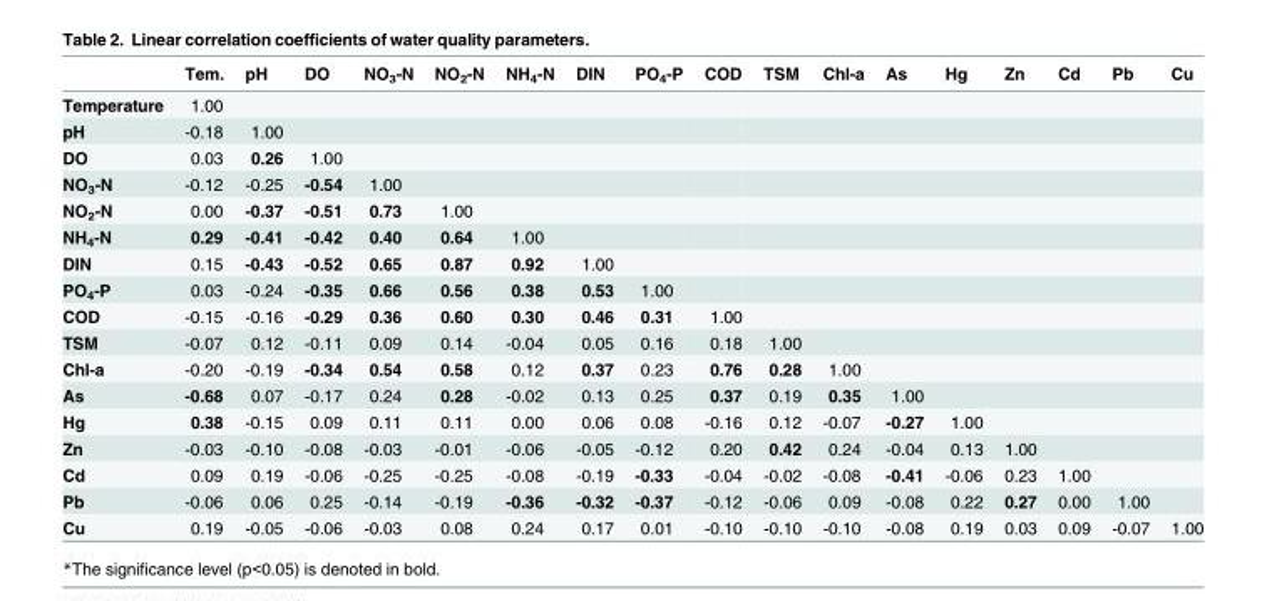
<table><thead><tr><td></td><td>Tem.</td><td>pH</td><td>DO</td><td>NO<sub>3</sub>-N</td><td>NO<sub>2</sub>-N</td><td>NH<sub>4</sub>-N</td><td>DIN</td><td>PO<sub>4</sub>-P</td><td>COD</td><td>TSM</td><td>Chl-a</td><td>As</td><td>Hg</td><td>Zn</td><td>Cd</td><td>Pb</td><td>Cu</td></tr></thead><tbody><tr><td>Temperature</td><td>1.00</td><td></td><td></td><td></td><td></td><td></td><td></td><td></td><td></td><td></td><td></td><td></td><td></td><td></td><td></td><td></td><td></td></tr><tr><td>pH</td><td>-0.18</td><td>1.00</td><td></td><td></td><td></td><td></td><td></td><td></td><td></td><td></td><td></td><td></td><td></td><td></td><td></td><td></td><td></td></tr><tr><td>DO</td><td>0.03</td><td>0.26</td><td>1.00</td><td></td><td></td><td></td><td></td><td></td><td></td><td></td><td></td><td></td><td></td><td></td><td></td><td></td><td></td></tr><tr><td>NO<sub>3</sub>-N</td><td>-0.12</td><td>-0.25</td><td>-0.54</td><td>1.00</td><td></td><td></td><td></td><td></td><td></td><td></td><td></td><td></td><td></td><td></td><td></td><td></td><td></td></tr><tr><td>NO<sub>2</sub>-N</td><td>0.00</td><td>-0.37</td><td>-0.51</td><td>0.73</td><td>1.00</td><td></td><td></td><td></td><td></td><td></td><td></td><td></td><td></td><td></td><td></td><td></td><td></td></tr><tr><td>NH<sub>4</sub>-N</td><td>0.29</td><td>-0.41</td><td>-0.42</td><td>0.40</td><td>0.64</td><td>1.00</td><td></td><td></td><td></td><td></td><td></td><td></td><td></td><td></td><td></td><td></td><td></td></tr><tr><td>DIN</td><td>0.15</td><td>-0.43</td><td>-0.52</td><td>0.65</td><td>0.87</td><td>0.92</td><td>1.00</td><td></td><td></td><td></td><td></td><td></td><td></td><td></td><td></td><td></td><td></td></tr><tr><td>PO<sub>4</sub>-P</td><td>0.03</td><td>-0.24</td><td>-0.35</td><td>0.66</td><td>0.56</td><td>0.38</td><td>0.53</td><td>1.00</td><td></td><td></td><td></td><td></td><td></td><td></td><td></td><td></td><td></td></tr><tr><td>COD</td><td>-0.15</td><td>-0.16</td><td>-0.29</td><td>0.36</td><td>0.60</td><td>0.30</td><td>0.46</td><td>0.31</td><td>1.00</td><td></td><td></td><td></td><td></td><td></td><td></td><td></td><td></td></tr><tr><td>TSM</td><td>-0.07</td><td>0.12</td><td>-0.11</td><td>0.09</td><td>0.14</td><td>-0.04</td><td>0.05</td><td>0.16</td><td>0.18</td><td>1.00</td><td></td><td></td><td></td><td></td><td></td><td></td><td></td></tr><tr><td>Chl-a</td><td>-0.20</td><td>-0.19</td><td>-0.34</td><td>0.54</td><td>0.58</td><td>0.12</td><td>0.37</td><td>0.23</td><td>0.76</td><td>0.28</td><td>1.00</td><td></td><td></td><td></td><td></td><td></td><td></td></tr><tr><td>As</td><td>-0.68</td><td>0.07</td><td>-0.17</td><td>0.24</td><td>0.28</td><td>-0.02</td><td>0.13</td><td>0.25</td><td>0.37</td><td>0.19</td><td>0.35</td><td>1.00</td><td></td><td></td><td></td><td></td><td></td></tr><tr><td>Hg</td><td>0.38</td><td>-0.15</td><td>0.09</td><td>0.11</td><td>0.11</td><td>0.00</td><td>0.06</td><td>0.08</td><td>-0.16</td><td>0.12</td><td>-0.07</td><td>-0.27</td><td>1.00</td><td></td><td></td><td></td><td></td></tr><tr><td>Zn</td><td>-0.03</td><td>-0.10</td><td>-0.08</td><td>-0.03</td><td>-0.01</td><td>-0.06</td><td>-0.05</td><td>-0.12</td><td>0.20</td><td>0.42</td><td>0.24</td><td>-0.04</td><td>0.13</td><td>1.00</td><td></td><td></td><td></td></tr><tr><td>Cd</td><td>0.09</td><td>0.19</td><td>-0.06</td><td>-0.25</td><td>-0.25</td><td>-0.08</td><td>-0.19</td><td>-0.33</td><td>-0.04</td><td>-0.02</td><td>-0.08</td><td>-0.41</td><td>-0.06</td><td>0.23</td><td>1.00</td><td></td><td></td></tr><tr><td>Pb</td><td>-0.06</td><td>0.06</td><td>0.25</td><td>-0.14</td><td>-0.19</td><td>-0.36</td><td>-0.32</td><td>-0.37</td><td>-0.12</td><td>-0.06</td><td>0.09</td><td>-0.08</td><td>0.22</td><td>0.27</td><td>0.00</td><td>1.00</td><td></td></tr><tr><td>Cu</td><td>0.19</td><td>-0.05</td><td>-0.06</td><td>-0.03</td><td>0.08</td><td>0.24</td><td>0.17</td><td>0.01</td><td>-0.10</td><td>-0.10</td><td>-0.10</td><td>-0.08</td><td>0.19</td><td>0.03</td><td>0.09</td><td>-0.07</td><td>1.00</td></tr></tbody></table>